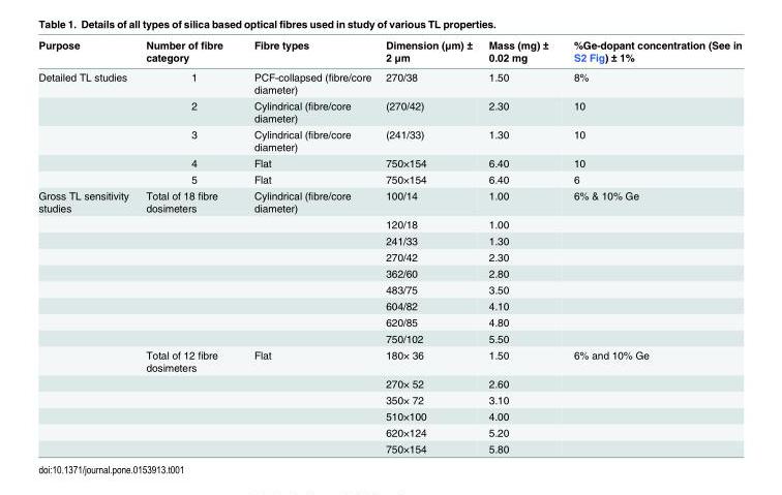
<table><thead><tr><td>Purpose</td><td>Number of fibre category</td><td>Fibre types</td><td>Dimension (μm) ± 2 μm</td><td>Mass (mg) ± 0.02 mg</td><td>%Ge-dopant concentration (See in S2 Fig) ± 1%</td></tr></thead><tbody><tr><td rowspan="5">Detailed TL studies</td><td>1</td><td>PCF-collapsed (fibre/core diameter)</td><td>270/38</td><td>1.50</td><td>8%</td></tr><tr><td>2</td><td>Cylindrical (fibre/core diameter)</td><td>(270/42)</td><td>2.30</td><td>10</td></tr><tr><td>3</td><td>Cylindrical (fibre/core diameter)</td><td>(241/33)</td><td>1.30</td><td>10</td></tr><tr><td>4</td><td>Flat</td><td>750×154</td><td>6.40</td><td>10</td></tr><tr><td>5</td><td>Flat</td><td>750×154</td><td>6.40</td><td>6</td></tr><tr><td rowspan="15">Gross TL sensitivity studies</td><td>Total of 18 fibre dosimeters</td><td>Cylindrical (fibre/core diameter)</td><td>100/14</td><td>1.00</td><td>6% &amp; 10% Ge</td></tr><tr><td></td><td></td><td>120/18</td><td>1.00</td><td></td></tr><tr><td></td><td></td><td>241/33</td><td>1.30</td><td></td></tr><tr><td></td><td></td><td>270/42</td><td>2.30</td><td></td></tr><tr><td></td><td></td><td>362/60</td><td>2.80</td><td></td></tr><tr><td></td><td></td><td>483/75</td><td>3.50</td><td></td></tr><tr><td></td><td></td><td>604/82</td><td>4.10</td><td></td></tr><tr><td></td><td></td><td>620/85</td><td>4.80</td><td></td></tr><tr><td></td><td></td><td>750/102</td><td>5.50</td><td></td></tr><tr><td>Total of 12 fibre dosimeters</td><td>Flat</td><td>180× 36</td><td>1.50</td><td>6% and 10% Ge</td></tr><tr><td></td><td></td><td>270× 52</td><td>2.60</td><td></td></tr><tr><td></td><td></td><td>350× 72</td><td>3.10</td><td></td></tr><tr><td></td><td></td><td>510×100</td><td>4.00</td><td></td></tr><tr><td></td><td></td><td>620×124</td><td>5.20</td><td></td></tr><tr><td></td><td></td><td>750×154</td><td>5.80</td><td></td></tr></tbody></table>